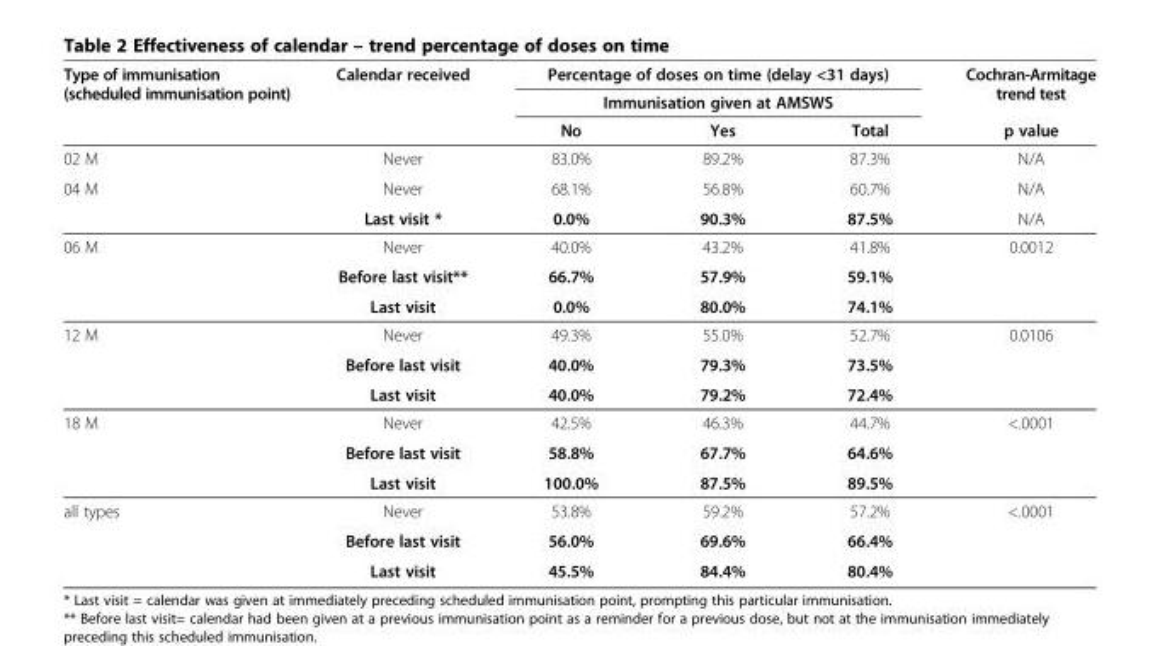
<table><thead><tr><td rowspan="3">Type of immunisation (scheduled immunisation point)</td><td rowspan="3">Calendar received</td><td rowspan="2" colspan="3">Percentage of doses on time (delay &lt;31 days) Immunisation given at AMSWS</td><td rowspan="3">Cochran-Armitage trend test p value</td></tr><tr></tr><tr><td>No</td><td>Yes</td><td>Total</td></tr></thead><tbody><tr><td>02 M</td><td>Never</td><td>83.0%</td><td>89.2%</td><td>87.3%</td><td>N/A</td></tr><tr><td rowspan="2">04 M</td><td>Never</td><td>68.1%</td><td>56.8%</td><td>60.7%</td><td>N/A</td></tr><tr><td>Last visit *</td><td>0.0%</td><td>90.3%</td><td>87.5%</td><td>N/A</td></tr><tr><td rowspan="3">06 M</td><td>Never</td><td>40.0%</td><td>43.2%</td><td>41.8%</td><td>0.0012</td></tr><tr><td>Before last visit**</td><td>66.7%</td><td>57.9%</td><td>59.1%</td><td></td></tr><tr><td>Last visit</td><td>0.0%</td><td>80.0%</td><td>74.1%</td><td></td></tr><tr><td rowspan="3">12 M</td><td>Never</td><td>49.3%</td><td>55.0%</td><td>52.7%</td><td>0.0106</td></tr><tr><td>Before last visit</td><td>40.0%</td><td>79.3%</td><td>73.5%</td><td></td></tr><tr><td>Last visit</td><td>40.0%</td><td>79.2%</td><td>72.4%</td><td></td></tr><tr><td rowspan="3">18 M</td><td>Never</td><td>42.5%</td><td>46.3%</td><td>44.7%</td><td>&lt;.0001</td></tr><tr><td>Before last visit</td><td>58.8%</td><td>67.7%</td><td>64.6%</td><td></td></tr><tr><td>Last visit</td><td>100.0%</td><td>87.5%</td><td>89.5%</td><td></td></tr><tr><td rowspan="3">all types</td><td>Never</td><td>53.8%</td><td>59.2%</td><td>57.2%</td><td>&lt;.0001</td></tr><tr><td>Before last visit</td><td>56.0%</td><td>69.6%</td><td>66.4%</td><td></td></tr><tr><td>Last visit</td><td>45.5%</td><td>84.4%</td><td>80.4%</td><td></td></tr></tbody></table>